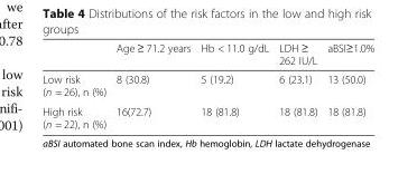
<table><thead><tr><td></td><td>Age ≥ 71.2 years</td><td>Hb &lt; 11.0 g/dL</td><td>LDH ≥ 262 IU/L</td><td>aBSI≥1.0%</td></tr></thead><tbody><tr><td>Low risk (n = 26), n (%)</td><td>8 (30.8)</td><td>5 (19.2)</td><td>6 (23.1)</td><td>13 (50.0)</td></tr><tr><td>High risk (n = 22), n (%)</td><td>16(72.7)</td><td>18 (81.8)</td><td>18 (81.8)</td><td>18 (81.8)</td></tr></tbody></table>